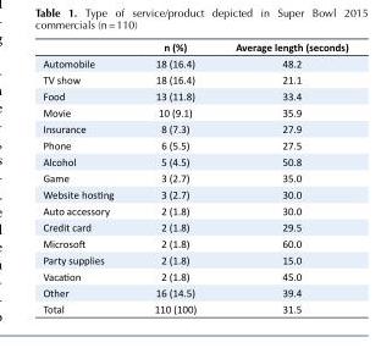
<table><thead><tr><td></td><td>n (%)</td><td>Average length (seconds)</td></tr></thead><tbody><tr><td>Automobile</td><td>18 (16.4)</td><td>48.2</td></tr><tr><td>TV show</td><td>18 (16.4)</td><td>21.1</td></tr><tr><td>Food</td><td>13 (11.8)</td><td>33.4</td></tr><tr><td>Movie</td><td>10 (9.1)</td><td>35.9</td></tr><tr><td>Insurance</td><td>8 (7.3)</td><td>27.9</td></tr><tr><td>Phone</td><td>6 (5.5)</td><td>27.5</td></tr><tr><td>Alcohol</td><td>5 (4.5)</td><td>50.8</td></tr><tr><td>Game</td><td>3 (2.7)</td><td>35.0</td></tr><tr><td>Website hosting</td><td>3 (2.7)</td><td>30.0</td></tr><tr><td>Auto accessory</td><td>2 (1.8)</td><td>30.0</td></tr><tr><td>Credit card</td><td>2 (1.8)</td><td>29.5</td></tr><tr><td>Microsoft</td><td>2 (1.8)</td><td>60.0</td></tr><tr><td>Party supplies</td><td>2 (1.8)</td><td>15.0</td></tr><tr><td>Vacation</td><td>2 (1.8)</td><td>45.0</td></tr><tr><td>Other</td><td>16 (14.5)</td><td>39.4</td></tr><tr><td>Total</td><td>110 (100)</td><td>31.5</td></tr></tbody></table>